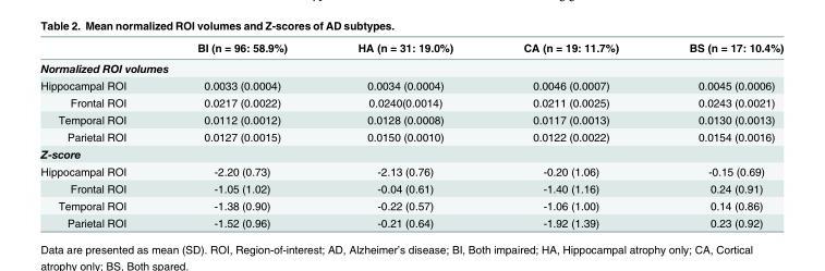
<table><thead><tr><td></td><td>BI (n = 96: 58.9%)</td><td>HA (n = 31: 19.0%)</td><td>CA (n = 19: 11.7%)</td><td>BS (n = 17: 10.4%)</td></tr></thead><tbody><tr><td colspan="5">Normalized ROI volumes</td></tr><tr><td>Hippocampal ROI</td><td>0.0033 (0.0004)</td><td>0.0034 (0.0004)</td><td>0.0046 (0.0007)</td><td>0.0045 (0.0006)</td></tr><tr><td>Frontal ROI</td><td>0.0217 (0.0022)</td><td>0.0240(0.0014)</td><td>0.0211 (0.0025)</td><td>0.0243 (0.0021)</td></tr><tr><td>Temporal ROI</td><td>0.0112 (0.0012)</td><td>0.0128 (0.0008)</td><td>0.0117 (0.0013)</td><td>0.0130 (0.0013)</td></tr><tr><td>Parietal ROI</td><td>0.0127 (0.0015)</td><td>0.0150 (0.0010)</td><td>0.0122 (0.0022)</td><td>0.0154 (0.0016)</td></tr><tr><td colspan="5">Z-score</td></tr><tr><td>Hippocampal ROI</td><td>-2.20 (0.73)</td><td>-2.13 (0.76)</td><td>-0.20 (1.06)</td><td>-0.15 (0.69)</td></tr><tr><td>Frontal ROI</td><td>-1.05 (1.02)</td><td>-0.04 (0.61)</td><td>-1.40 (1.16)</td><td>0.24 (0.91)</td></tr><tr><td>Temporal ROI</td><td>-1.38 (0.90)</td><td>-0.22 (0.57)</td><td>-1.06 (1.00)</td><td>0.14 (0.86)</td></tr><tr><td>Parietal ROI</td><td>-1.52 (0.96)</td><td>-0.21 (0.64)</td><td>-1.92 (1.39)</td><td>0.23 (0.92)</td></tr></tbody></table>